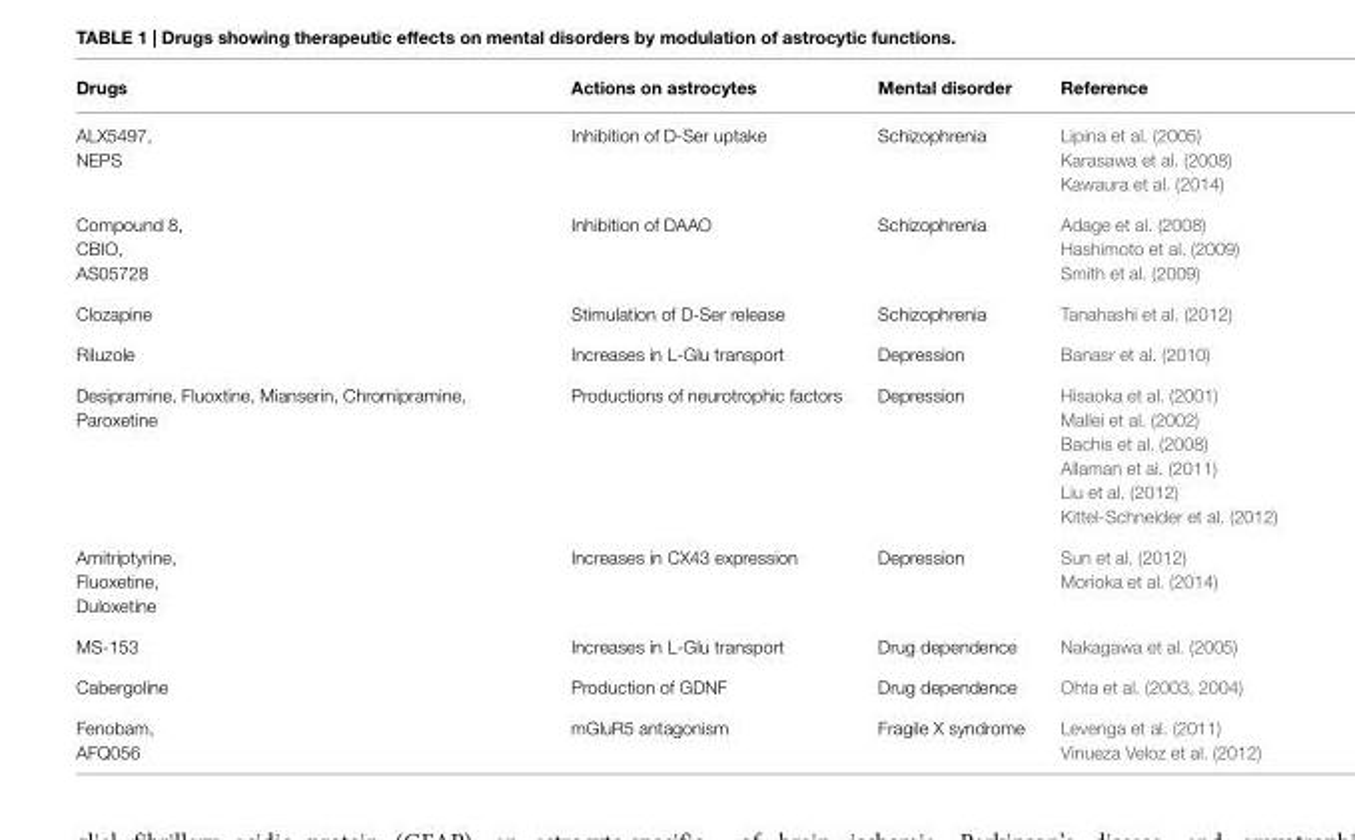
<table><thead><tr><td>Drugs</td><td>Actions on astrocytes</td><td>Mental disorder</td><td>Reference</td></tr></thead><tbody><tr><td>ALX5497, NEPS</td><td>Inhibition of D-Ser uptake</td><td>Schizophrenia</td><td>Lipina et al. (2005) Karasawa et al. (2008) Kawaura et al. (2014)</td></tr><tr><td>Compound 8, CBIO, AS05728</td><td>Inhibition of DAAO</td><td>Schizophrenia</td><td>Adage et al. (2008) Hashimoto et al. (2009) Smith et al. (2009)</td></tr><tr><td>Clozapine</td><td>Stimulation of D-Ser release</td><td>Schizophrenia</td><td>Tanahashi et al. (2012)</td></tr><tr><td>Riluzole</td><td>Increases in L-Glu transport</td><td>Depression</td><td>Banasr et al. (2010)</td></tr><tr><td>Desipramine, Fluoxtine, Mianserin, Chromipramine, Paroxetine</td><td>Productions of neurotrophic factors</td><td>Depression</td><td>Hisaoka et al. (2001) Mallei et al. (2002) Bachis et al. (2008) Allaman et al. (2011) Liu et al. (2012) Kittel-Schneider et al. (2012)</td></tr><tr><td>Amitriptyrine, Fluoxetine, Duloxetine</td><td>Increases in CX43 expression</td><td>Depression</td><td>Sun et al. (2012) Morioka et al. (2014)</td></tr><tr><td>MS-153</td><td>Increases in L-Glu transport</td><td>Drug dependence</td><td>Nakagawa et al. (2005)</td></tr><tr><td>Cabergoline</td><td>Production of GDNF</td><td>Drug dependence</td><td>Ohta et al. (2003, 2004)</td></tr><tr><td>Fenobam, AFQ056</td><td>mGluR5 antagonism</td><td>Fragile X syndrome</td><td>Levenga et al. (2011) Vinueza Veloz et al. (2012)</td></tr></tbody></table>